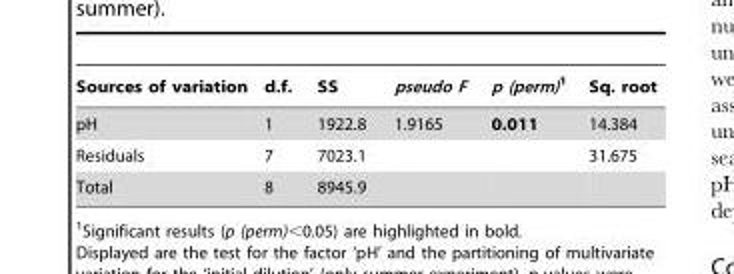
<table><thead><tr><td>Sources of variation</td><td>d.f.</td><td>SS</td><td>pseudo F</td><td>p (perm)1</td><td>Sq. root</td></tr></thead><tbody><tr><td>pH</td><td>1</td><td>1922.8</td><td>1.9165</td><td>0.011</td><td>14.384</td></tr><tr><td>Residuals</td><td>7</td><td>7023.1</td><td></td><td></td><td>31.675</td></tr><tr><td>Total</td><td>8</td><td>8945.9</td><td></td><td></td><td></td></tr></tbody></table>